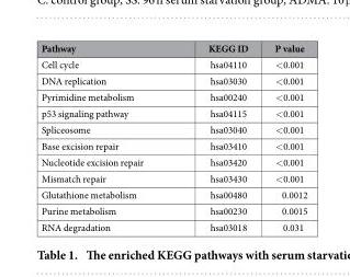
<table><thead><tr><td>Pathway</td><td>KEGG ID</td><td>P value</td></tr></thead><tbody><tr><td>Cell cycle</td><td>hsa04110</td><td>&lt; 0.001</td></tr><tr><td>DNA replication</td><td>hsa03030</td><td>&lt; 0.001</td></tr><tr><td>Pyrimidine metabolism</td><td>hsa00240</td><td>&lt; 0.001</td></tr><tr><td>p53 signaling pathway</td><td>hsa04115</td><td>&lt; 0.001</td></tr><tr><td>Spliceosome</td><td>hsa03040</td><td>&lt; 0.001</td></tr><tr><td>Base excision repair</td><td>hsa03410</td><td>&lt; 0.001</td></tr><tr><td>Nucleotide excision repair</td><td>hsa03420</td><td>&lt; 0.001</td></tr><tr><td>Mismatch repair</td><td>hsa03430</td><td>&lt; 0.001</td></tr><tr><td>Glutathione metabolism</td><td>hsa00480</td><td>0.0012</td></tr><tr><td>Purine metabolism</td><td>hsa00230</td><td>0.0015</td></tr><tr><td>RNA degradation</td><td>hsa03018</td><td>0.031</td></tr></tbody></table>